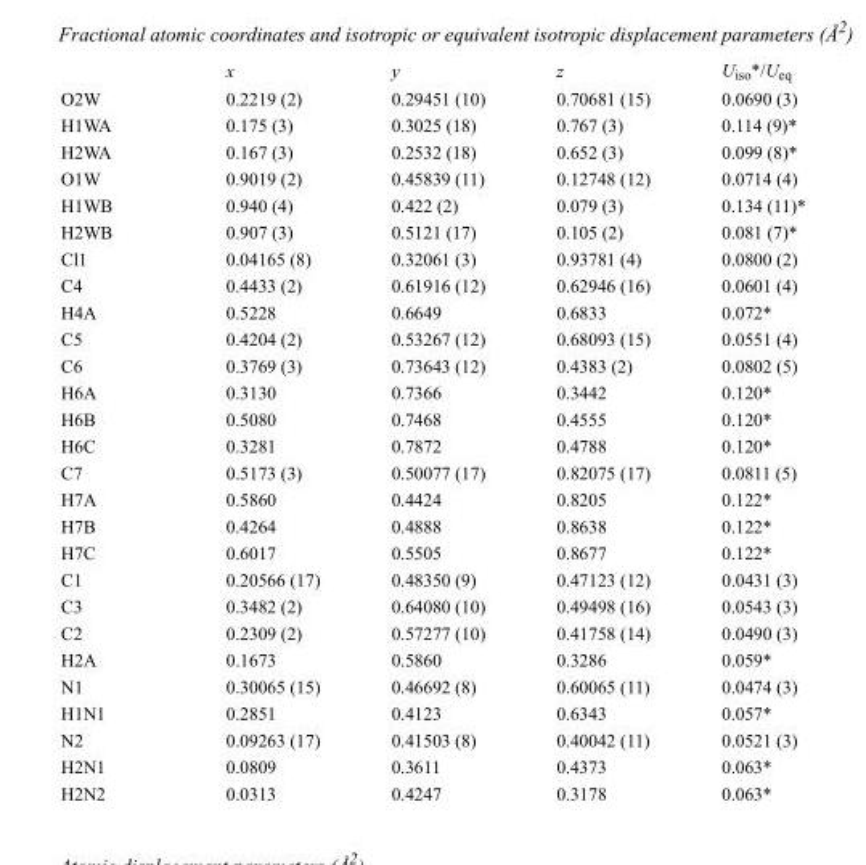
<table><thead><tr><td></td><td>x</td><td>y</td><td>z</td><td>U<sub>iso</sub>*/U<sub>eq</sub></td></tr></thead><tbody><tr><td>O2W</td><td>0.2219 (2)</td><td>0.29451 (10)</td><td>0.70681 (15)</td><td>0.0690 (3)</td></tr><tr><td>H1WA</td><td>0.175 (3)</td><td>0.3025 (18)</td><td>0.767 (3)</td><td>0.114 (9)*</td></tr><tr><td>H2WA</td><td>0.167 (3)</td><td>0.2532 (18)</td><td>0.652 (3)</td><td>0.099 (8)*</td></tr><tr><td>O1W</td><td>0.9019 (2)</td><td>0.45839 (11)</td><td>0.12748 (12)</td><td>0.0714 (4)</td></tr><tr><td>H1WB</td><td>0.940 (4)</td><td>0.422 (2)</td><td>0.079 (3)</td><td>0.134 (11)*</td></tr><tr><td>H2WB</td><td>0.907 (3)</td><td>0.5121 (17)</td><td>0.105 (2)</td><td>0.081 (7)*</td></tr><tr><td>Cl1</td><td>0.04165 (8)</td><td>0.32061 (3)</td><td>0.93781 (4)</td><td>0.0800 (2)</td></tr><tr><td>C4</td><td>0.4433 (2)</td><td>0.61916 (12)</td><td>0.62946 (16)</td><td>0.0601 (4)</td></tr><tr><td>H4A</td><td>0.5228</td><td>0.6649</td><td>0.6833</td><td>0.072*</td></tr><tr><td>C5</td><td>0.4204 (2)</td><td>0.53267 (12)</td><td>0.68093 (15)</td><td>0.0551 (4)</td></tr><tr><td>C6</td><td>0.3769 (3)</td><td>0.73643 (12)</td><td>0.4383 (2)</td><td>0.0802 (5)</td></tr><tr><td>H6A</td><td>0.3130</td><td>0.7366</td><td>0.3442</td><td>0.120*</td></tr><tr><td>H6B</td><td>0.5080</td><td>0.7468</td><td>0.4555</td><td>0.120*</td></tr><tr><td>H6C</td><td>0.3281</td><td>0.7872</td><td>0.4788</td><td>0.120*</td></tr><tr><td>C7</td><td>0.5173 (3)</td><td>0.50077 (17)</td><td>0.82075 (17)</td><td>0.0811 (5)</td></tr><tr><td>H7A</td><td>0.5860</td><td>0.4424</td><td>0.8205</td><td>0.122*</td></tr><tr><td>H7B</td><td>0.4264</td><td>0.4888</td><td>0.8638</td><td>0.122*</td></tr><tr><td>H7C</td><td>0.6017</td><td>0.5505</td><td>0.8677</td><td>0.122*</td></tr><tr><td>C1</td><td>0.20566 (17)</td><td>0.48350 (9)</td><td>0.47123 (12)</td><td>0.0431 (3)</td></tr><tr><td>C3</td><td>0.3482 (2)</td><td>0.64080 (10)</td><td>0.49498 (16)</td><td>0.0543 (3)</td></tr><tr><td>C2</td><td>0.2309 (2)</td><td>0.57277 (10)</td><td>0.41758 (14)</td><td>0.0490 (3)</td></tr><tr><td>H2A</td><td>0.1673</td><td>0.5860</td><td>0.3286</td><td>0.059*</td></tr><tr><td>N1</td><td>0.30065 (15)</td><td>0.46692 (8)</td><td>0.60065 (11)</td><td>0.0474 (3)</td></tr><tr><td>H1N1</td><td>0.2851</td><td>0.4123</td><td>0.6343</td><td>0.057*</td></tr><tr><td>N2</td><td>0.09263 (17)</td><td>0.41503 (8)</td><td>0.40042 (11)</td><td>0.0521 (3)</td></tr><tr><td>H2N1</td><td>0.0809</td><td>0.3611</td><td>0.4373</td><td>0.063*</td></tr><tr><td>H2N2</td><td>0.0313</td><td>0.4247</td><td>0.3178</td><td>0.063*</td></tr></tbody></table>